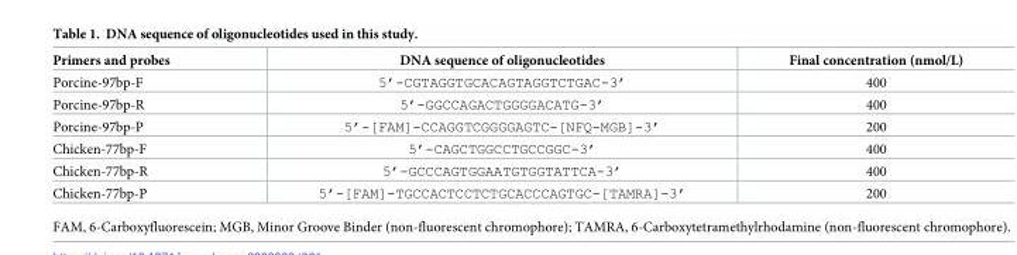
<table><thead><tr><td>Primers and probes</td><td>DNA sequence of oligonucleotides</td><td>Final concentration (nmol/L)</td></tr></thead><tbody><tr><td>Porcine-97bp-F</td><td>5’-CGTAGGTGCACAGTAGGTCTGAC-3’</td><td>400</td></tr><tr><td>Porcine-97bp-R</td><td>5’-GGCCAGACTGGGGACATG-3’</td><td>400</td></tr><tr><td>Porcine-97bp-P</td><td>5’-[FAM]-CCAGGTCGGGGAGTC-[NFQ-MGB]-3’</td><td>200</td></tr><tr><td>Chicken-77bp-F</td><td>5’-CAGCTGGCCTGCCGGC-3’</td><td>400</td></tr><tr><td>Chicken-77bp-R</td><td>5’-GCCCAGTGGAATGTGGTATTCA-3’</td><td>400</td></tr><tr><td>Chicken-77bp-P</td><td>5’-[FAM]-TGCCACTCCTCTGCACCCAGTGC-[TAMRA]-3’</td><td>200</td></tr></tbody></table>